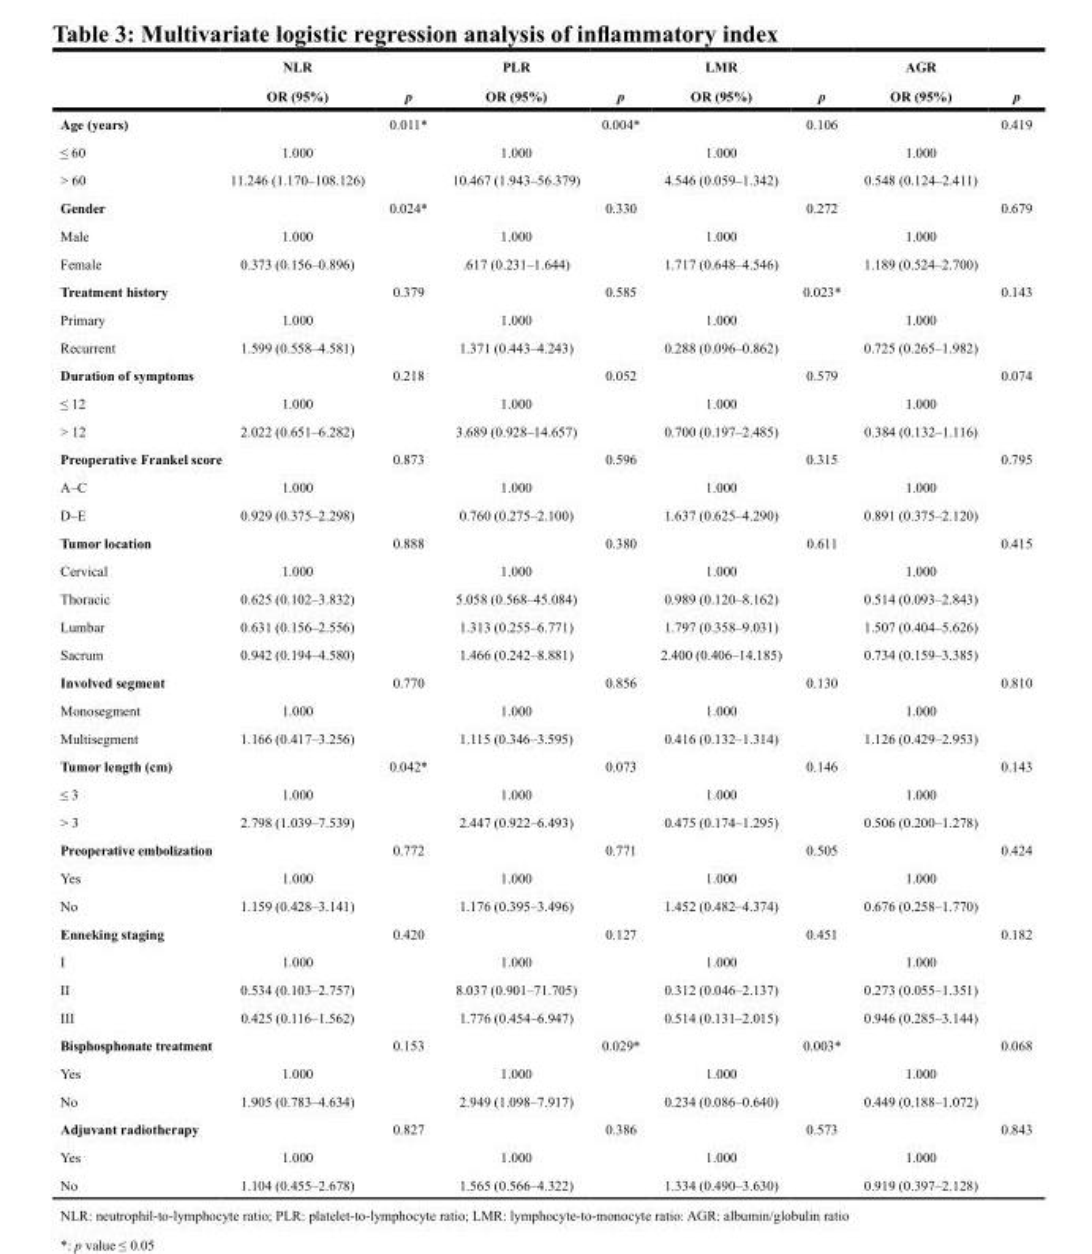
<table><thead><tr><td rowspan="2"></td><td rowspan="2">NLR OR (95%)</td><td rowspan="2">p</td><td rowspan="2">PLR OR (95%)</td><td rowspan="2">p</td><td rowspan="2">LMR OR (95%)</td><td rowspan="2">p</td><td rowspan="2">AGR OR (95%)</td><td rowspan="2">p</td></tr><tr></tr></thead><tbody><tr><td>Age (years)</td><td></td><td>0.011*</td><td></td><td>0.004*</td><td></td><td>0.106</td><td></td><td>0.419</td></tr><tr><td>≤ 60</td><td>1.000</td><td></td><td>1.000</td><td></td><td>1.000</td><td></td><td>1.000</td><td></td></tr><tr><td>&gt; 60</td><td>11.246 (1.170–108.126)</td><td></td><td>10.467 (1.943–56.379)</td><td></td><td>4.546 (0.059–1.342)</td><td></td><td>0.548 (0.124–2.411)</td><td></td></tr><tr><td>Gender</td><td></td><td>0.024*</td><td></td><td>0.330</td><td></td><td>0.272</td><td></td><td>0.679</td></tr><tr><td>Male</td><td>1.000</td><td></td><td>1.000</td><td></td><td>1.000</td><td></td><td>1.000</td><td></td></tr><tr><td>Female</td><td>0.373 (0.156–0.896)</td><td></td><td>.617 (0.231–1.644)</td><td></td><td>1.717 (0.648–4.546)</td><td></td><td>1.189 (0.524–2.700)</td><td></td></tr><tr><td>Treatment history</td><td></td><td>0.379</td><td></td><td>0.585</td><td></td><td>0.023*</td><td></td><td>0.143</td></tr><tr><td>Primary</td><td>1.000</td><td></td><td>1.000</td><td></td><td>1.000</td><td></td><td>1.000</td><td></td></tr><tr><td>Recurrent</td><td>1.599 (0.558–4.581)</td><td></td><td>1.371 (0.443–4.243)</td><td></td><td>0.288 (0.096–0.862)</td><td></td><td>0.725 (0.265–1.982)</td><td></td></tr><tr><td>Duration of symptoms</td><td></td><td>0.218</td><td></td><td>0.052</td><td></td><td>0.579</td><td></td><td>0.074</td></tr><tr><td>≤ 12</td><td>1.000</td><td></td><td>1.000</td><td></td><td>1.000</td><td></td><td>1.000</td><td></td></tr><tr><td>&gt; 12</td><td>2.022 (0.651–6.282)</td><td></td><td>3.689 (0.928–14.657)</td><td></td><td>0.700 (0.197–2.485)</td><td></td><td>0.384 (0.132–1.116)</td><td></td></tr><tr><td colspan="2">Preoperative Frankel score</td><td>0.873</td><td></td><td>0.596</td><td></td><td>0.315</td><td></td><td>0.795</td></tr><tr><td>A–C</td><td>1.000</td><td></td><td>1.000</td><td></td><td>1.000</td><td></td><td>1.000</td><td></td></tr><tr><td>D–E</td><td>0.929 (0.375–2.298)</td><td></td><td>0.760 (0.275–2.100)</td><td></td><td>1.637 (0.625–4.290)</td><td></td><td>0.891 (0.375–2.120)</td><td></td></tr><tr><td>Tumor location</td><td></td><td>0.888</td><td></td><td>0.380</td><td></td><td>0.611</td><td></td><td>0.415</td></tr><tr><td>Cervical</td><td>1.000</td><td></td><td>1.000</td><td></td><td>1.000</td><td></td><td>1.000</td><td></td></tr><tr><td>Thoracic</td><td>0.625 (0.102–3.832)</td><td></td><td>5.058 (0.568–45.084)</td><td></td><td>0.989 (0.120–8.162)</td><td></td><td>0.514 (0.093–2.843)</td><td></td></tr><tr><td>Lumbar</td><td>0.631 (0.156–2.556)</td><td></td><td>1.313 (0.255–6.771)</td><td></td><td>1.797 (0.358–9.031)</td><td></td><td>1.507 (0.404–5.626)</td><td></td></tr><tr><td>Sacrum</td><td>0.942 (0.194–4.580)</td><td></td><td>1.466 (0.242–8.881)</td><td></td><td>2.400 (0.406–14.185)</td><td></td><td>0.734 (0.159–3.385)</td><td></td></tr><tr><td>Involved segment</td><td></td><td>0.770</td><td></td><td>0.856</td><td></td><td>0.130</td><td></td><td>0.810</td></tr><tr><td>Monosegment</td><td>1.000</td><td></td><td>1.000</td><td></td><td>1.000</td><td></td><td>1.000</td><td></td></tr><tr><td>Multisegment</td><td>1.166 (0.417–3.256)</td><td></td><td>1.115 (0.346–3.595)</td><td></td><td>0.416 (0.132–1.314)</td><td></td><td>1.126 (0.429–2.953)</td><td></td></tr><tr><td>Tumor length (cm)</td><td></td><td>0.042*</td><td></td><td>0.073</td><td></td><td>0.146</td><td></td><td>0.143</td></tr><tr><td>≤ 3</td><td>1.000</td><td></td><td>1.000</td><td></td><td>1.000</td><td></td><td>1.000</td><td></td></tr><tr><td>&gt; 3</td><td>2.798 (1.039–7.539)</td><td></td><td>2.447 (0.922–6.493)</td><td></td><td>0.475 (0.174–1.295)</td><td></td><td>0.506 (0.200–1.278)</td><td></td></tr><tr><td>Preoperative embolization</td><td></td><td>0.772</td><td></td><td>0.771</td><td></td><td>0.505</td><td></td><td>0.424</td></tr><tr><td>Yes</td><td>1.000</td><td></td><td>1.000</td><td></td><td>1.000</td><td></td><td>1.000</td><td></td></tr><tr><td>No</td><td>1.159 (0.428–3.141)</td><td></td><td>1.176 (0.395–3.496)</td><td></td><td>1.452 (0.482–4.374)</td><td></td><td>0.676 (0.258–1.770)</td><td></td></tr><tr><td>Enneking staging</td><td></td><td>0.420</td><td></td><td>0.127</td><td></td><td>0.451</td><td></td><td>0.182</td></tr><tr><td>I</td><td>1.000</td><td></td><td>1.000</td><td></td><td>1.000</td><td></td><td>1.000</td><td></td></tr><tr><td>II</td><td>0.534 (0.103–2.757)</td><td></td><td>8.037 (0.901–71.705)</td><td></td><td>0.312 (0.046–2.137)</td><td></td><td>0.273 (0.055–1.351)</td><td></td></tr><tr><td>III</td><td>0.425 (0.116–1.562)</td><td></td><td>1.776 (0.454–6.947)</td><td></td><td>0.514 (0.131–2.015)</td><td></td><td>0.946 (0.285–3.144)</td><td></td></tr><tr><td>Bisphosphonate treatment</td><td></td><td>0.153</td><td></td><td>0.029*</td><td></td><td>0.003*</td><td></td><td>0.068</td></tr><tr><td>Yes</td><td>1.000</td><td></td><td>1.000</td><td></td><td>1.000</td><td></td><td>1.000</td><td></td></tr><tr><td>No</td><td>1.905 (0.783–4.634)</td><td></td><td>2.949 (1.098–7.917)</td><td></td><td>0.234 (0.086–0.640)</td><td></td><td>0.449 (0.188–1.072)</td><td></td></tr><tr><td>Adjuvant radiotherapy</td><td></td><td>0.827</td><td></td><td>0.386</td><td></td><td>0.573</td><td></td><td>0.843</td></tr><tr><td>Yes</td><td>1.000</td><td></td><td>1.000</td><td></td><td>1.000</td><td></td><td>1.000</td><td></td></tr><tr><td>No</td><td>1.104 (0.455–2.678)</td><td></td><td>1.565 (0.566–4.322)</td><td></td><td>1.334 (0.490–3.630)</td><td></td><td>0.919 (0.397–2.128)</td><td></td></tr></tbody></table>